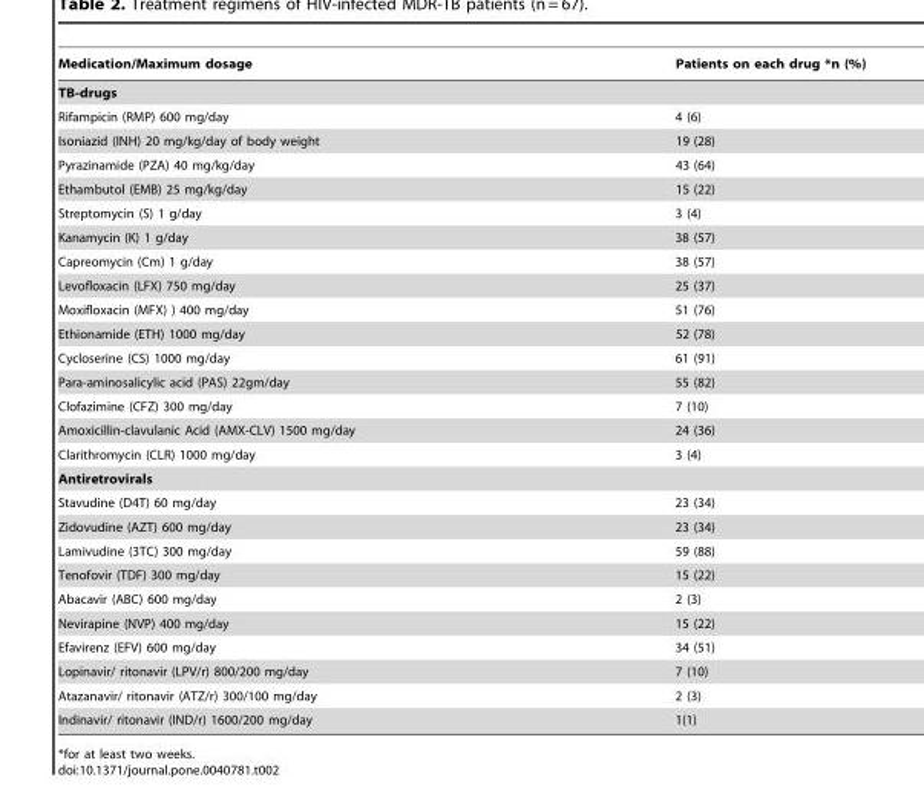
<table><thead><tr><td>Medication/Maximum dosage</td><td>Patients on each drug *n (%)</td></tr></thead><tbody><tr><td colspan="2">TB-drugs</td></tr><tr><td>Rifampicin (RMP) 600 mg/day</td><td>4 (6)</td></tr><tr><td>Isoniazid (INH) 20 mg/kg/day of body weight</td><td>19 (28)</td></tr><tr><td>Pyrazinamide (PZA) 40 mg/kg/day</td><td>43 (64)</td></tr><tr><td>Ethambutol (EMB) 25 mg/kg/day</td><td>15 (22)</td></tr><tr><td>Streptomycin (S) 1 g/day</td><td>3 (4)</td></tr><tr><td>Kanamycin (K) 1 g/day</td><td>38 (57)</td></tr><tr><td>Capreomycin (Cm) 1 g/day</td><td>38 (57)</td></tr><tr><td>Levofloxacin (LFX) 750 mg/day</td><td>25 (37)</td></tr><tr><td>Moxifloxacin (MFX) ) 400 mg/day</td><td>51 (76)</td></tr><tr><td>Ethionamide (ETH) 1000 mg/day</td><td>52 (78)</td></tr><tr><td>Cycloserine (CS) 1000 mg/day</td><td>61 (91)</td></tr><tr><td>Para-aminosalicylic acid (PAS) 22gm/day</td><td>55 (82)</td></tr><tr><td>Clofazimine (CFZ) 300 mg/day</td><td>7 (10)</td></tr><tr><td>Amoxicillin-clavulanic Acid (AMX-CLV) 1500 mg/day</td><td>24 (36)</td></tr><tr><td>Clarithromycin (CLR) 1000 mg/day</td><td>3 (4)</td></tr><tr><td colspan="2">Antiretrovirals</td></tr><tr><td>Stavudine (D4T) 60 mg/day</td><td>23 (34)</td></tr><tr><td>Zidovudine (AZT) 600 mg/day</td><td>23 (34)</td></tr><tr><td>Lamivudine (3TC) 300 mg/day</td><td>59 (88)</td></tr><tr><td>Tenofovir (TDF) 300 mg/day</td><td>15 (22)</td></tr><tr><td>Abacavir (ABC) 600 mg/day</td><td>2 (3)</td></tr><tr><td>Nevirapine (NVP) 400 mg/day</td><td>15 (22)</td></tr><tr><td>Efavirenz (EFV) 600 mg/day</td><td>34 (51)</td></tr><tr><td>Lopinavir/ ritonavir (LPV/r) 800/200 mg/day</td><td>7 (10)</td></tr><tr><td>Atazanavir/ ritonavir (ATZ/r) 300/100 mg/day</td><td>2 (3)</td></tr><tr><td>Indinavir/ ritonavir (IND/r) 1600/200 mg/day</td><td>1(1)</td></tr></tbody></table>